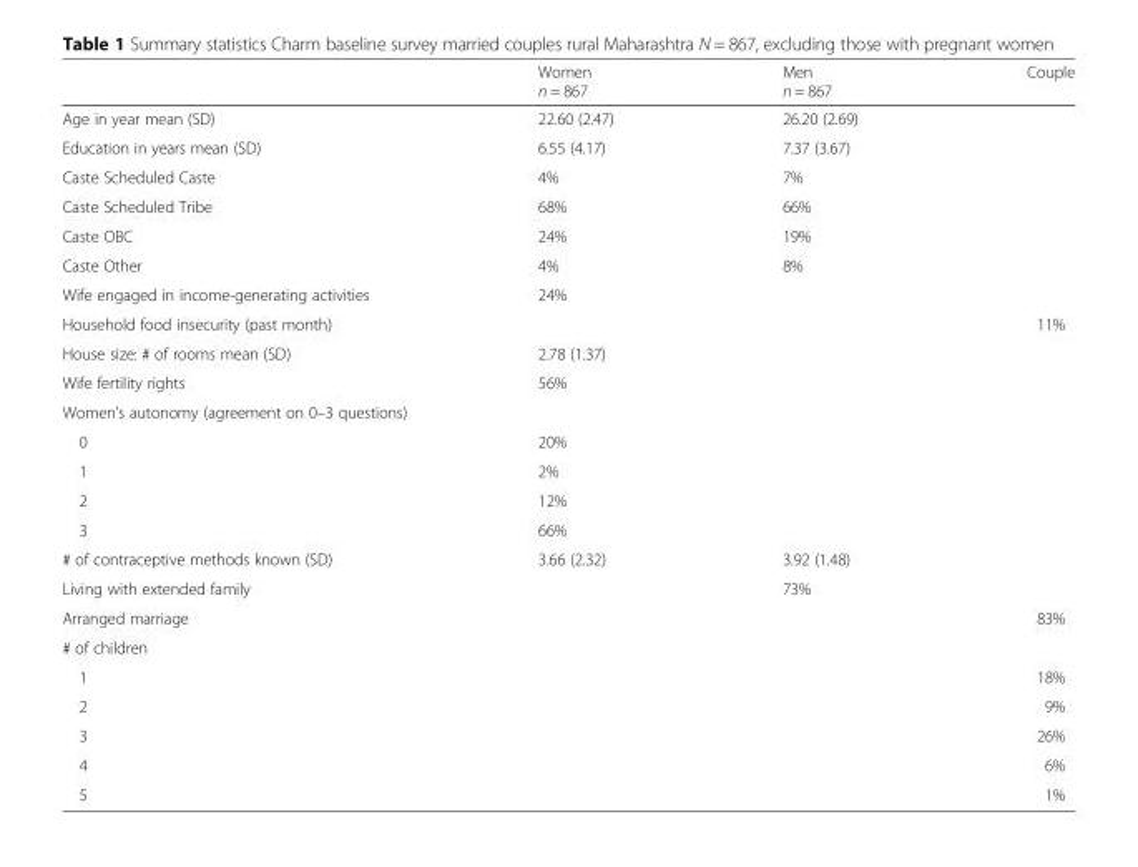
<table><thead><tr><td></td><td>Women n = 867</td><td>Men n = 867</td><td>Couple</td></tr></thead><tbody><tr><td>Age in year mean (SD)</td><td>22.60 (2.47)</td><td>26.20 (2.69)</td><td></td></tr><tr><td>Education in years mean (SD)</td><td>6.55 (4.17)</td><td>7.37 (3.67)</td><td></td></tr><tr><td>Caste Scheduled Caste</td><td>4%</td><td>7%</td><td></td></tr><tr><td>Caste Scheduled Tribe</td><td>68%</td><td>66%</td><td></td></tr><tr><td>Caste OBC</td><td>24%</td><td>19%</td><td></td></tr><tr><td>Caste Other</td><td>4%</td><td>8%</td><td></td></tr><tr><td>Wife engaged in income-generating activities</td><td>24%</td><td></td><td></td></tr><tr><td>Household food insecurity (past month)</td><td></td><td></td><td>11%</td></tr><tr><td>House size: # of rooms mean (SD)</td><td>2.78 (1.37)</td><td></td><td></td></tr><tr><td>Wife fertility rights</td><td>56%</td><td></td><td></td></tr><tr><td colspan="4">Women’s autonomy (agreement on 0–3 questions)</td></tr><tr><td>0</td><td>20%</td><td></td><td></td></tr><tr><td>1</td><td>2%</td><td></td><td></td></tr><tr><td>2</td><td>12%</td><td></td><td></td></tr><tr><td>3</td><td>66%</td><td></td><td></td></tr><tr><td># of contraceptive methods known (SD)</td><td>3.66 (2.32)</td><td>3.92 (1.48)</td><td></td></tr><tr><td>Living with extended family</td><td></td><td>73%</td><td></td></tr><tr><td>Arranged marriage</td><td></td><td></td><td>83%</td></tr><tr><td colspan="4"># of children</td></tr><tr><td>1</td><td></td><td></td><td>18%</td></tr><tr><td>2</td><td></td><td></td><td>9%</td></tr><tr><td>3</td><td></td><td></td><td>26%</td></tr><tr><td>4</td><td></td><td></td><td>6%</td></tr><tr><td>5</td><td></td><td></td><td>1%</td></tr></tbody></table>